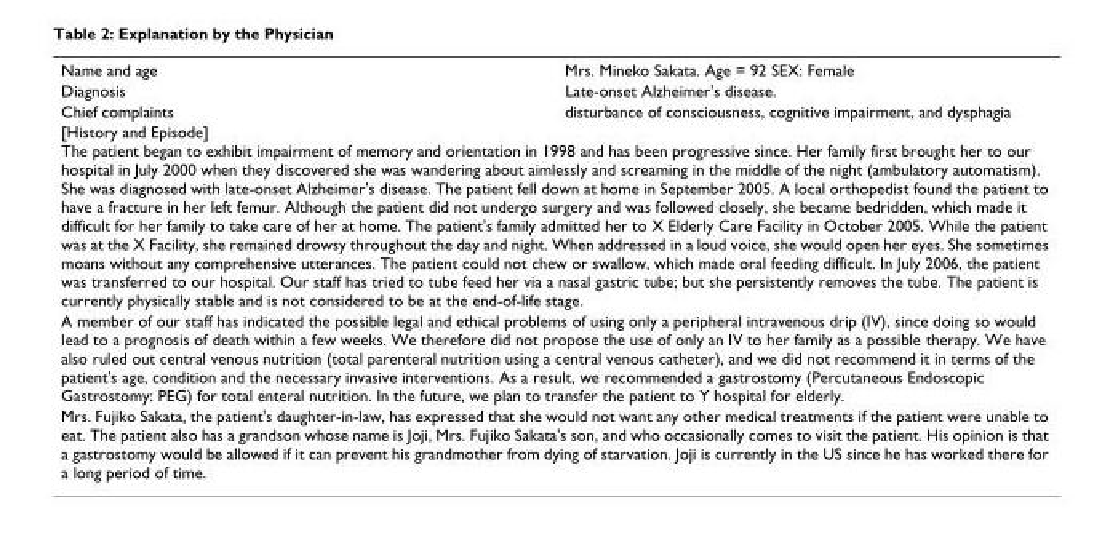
<table><tbody><tr><td>Name and age</td><td>Mrs. Mineko Sakata. Age = 92 SEX: Female</td></tr><tr><td>Diagnosis</td><td>Late-onset Alzheimer&#x27;s disease.</td></tr><tr><td>Chief complaints</td><td>disturbance of consciousness, cognitive impairment, and dysphagia</td></tr><tr><td colspan="2">[History and Episode] The patient began to exhibit impairment of memory and orientation in 1998 and has been progressive since. Her family first brought her to our hospital in July 2000 when they discovered she was wandering about aimlessly and screaming in the middle of the night (ambulatory automatism). She was diagnosed with late-onset Alzheimer&#x27;s disease. The patient fell down at home in September 2005. A local orthopedist found the patient to have a fracture in her left femur. Although the patient did not undergo surgery and was followed closely, she became bedridden, which made it difficult for her family to take care of her at home. The patient&#x27;s family admitted her to X Elderly Care Facility in October 2005. While the patient was at the X Facility, she remained drowsy throughout the day and night. When addressed in a loud voice, she would open her eyes. She sometimes moans without any comprehensive utterances. The patient could not chew or swallow, which made oral feeding difficult. In July 2006, the patient was transferred to our hospital. Our staff has tried to tube feed her via a nasal gastric tube; but she persistently removes the tube. The patient is currently physically stable and is not considered to be at the end-of-life stage.</td></tr><tr><td colspan="2">A member of our staff has indicated the possible legal and ethical problems of using only a peripheral intravenous drip (IV), since doing so would lead to a prognosis of death within a few weeks. We therefore did not propose the use of only an IV to her family as a possible therapy. We have also ruled out central venous nutrition (total parenteral nutrition using a central venous catheter), and we did not recommend it in terms of the patient&#x27;s age, condition and the necessary invasive interventions. As a result, we recommended a gastrostomy (Percutaneous Endoscopic Gastrostomy: PEG) for total enteral nutrition. In the future, we plan to transfer the patient to Y hospital for elderly.</td></tr><tr><td colspan="2">Mrs. Fujiko Sakata, the patient&#x27;s daughter-in-law, has expressed that she would not want any other medical treatments if the patient were unable to eat. The patient also has a grandson whose name is Joji, Mrs. Fujiko Sakata&#x27;s son, and who occasionally comes to visit the patient. His opinion is that a gastrostomy would be allowed if it can prevent his grandmother from dying of starvation. Joji is currently in the US since he has worked there for a long period of time.</td></tr></tbody></table>